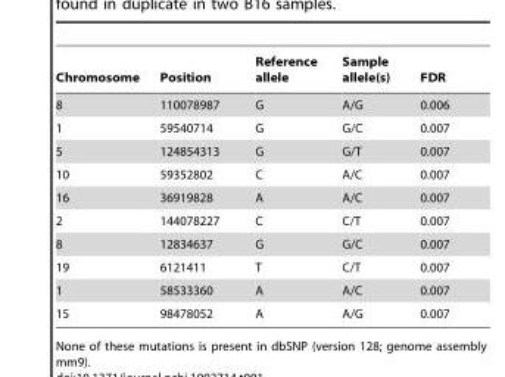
<table><thead><tr><td>Chromosome</td><td>Position</td><td>Reference allele</td><td>Sample allele(s)</td><td>FDR</td></tr></thead><tbody><tr><td>8</td><td>110078987</td><td>G</td><td>A/G</td><td>0.006</td></tr><tr><td>1</td><td>59540714</td><td>G</td><td>G/C</td><td>0.007</td></tr><tr><td>5</td><td>124854313</td><td>G</td><td>G/T</td><td>0.007</td></tr><tr><td>10</td><td>59352802</td><td>C</td><td>A/C</td><td>0.007</td></tr><tr><td>16</td><td>36919828</td><td>A</td><td>A/C</td><td>0.007</td></tr><tr><td>2</td><td>144078227</td><td>C</td><td>C/T</td><td>0.007</td></tr><tr><td>8</td><td>12834637</td><td>G</td><td>G/C</td><td>0.007</td></tr><tr><td>19</td><td>6121411</td><td>T</td><td>C/T</td><td>0.007</td></tr><tr><td>1</td><td>58533360</td><td>A</td><td>A/C</td><td>0.007</td></tr><tr><td>15</td><td>98478052</td><td>A</td><td>A/G</td><td>0.007</td></tr></tbody></table>